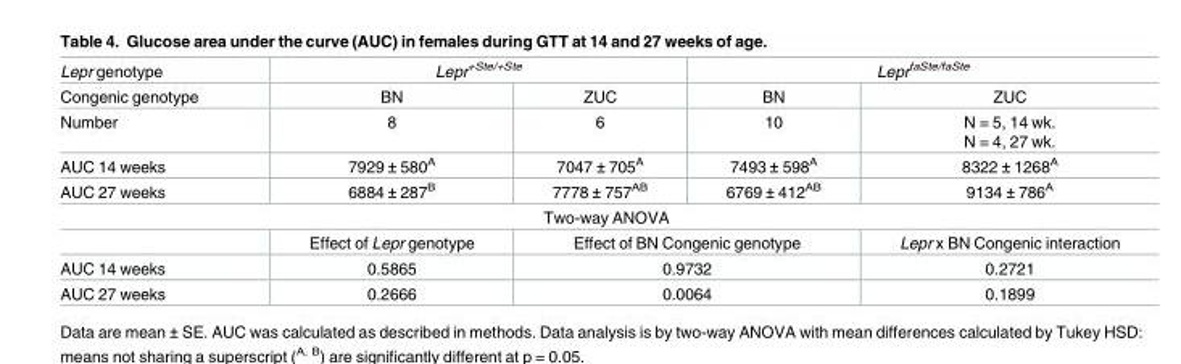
<table><tbody><tr><td>Lepr genotype</td><td colspan="2">Lepr<sup>+Ste/+Ste</sup></td><td colspan="2">Lepr<sup>faSte/faSte</sup></td></tr><tr><td>Congenic genotype</td><td>BN</td><td>ZUC</td><td>BN</td><td>ZUC</td></tr><tr><td>Number</td><td>8</td><td>6</td><td>10</td><td>N = 5, 14 wk. N = 4, 27 wk.</td></tr><tr><td>AUC 14 weeks</td><td>7929 ± 580<sup>A</sup></td><td>7047 ± 705<sup>A</sup></td><td>7493 ± 598<sup>A</sup></td><td>8322 ± 1268<sup>A</sup></td></tr><tr><td>AUC 27 weeks</td><td>6884 ± 287<sup>B</sup></td><td>7778 ± 757<sup>AB</sup></td><td>6769 ± 412<sup>AB</sup></td><td>9134 ± 786<sup>A</sup></td></tr><tr><td colspan="5">Two-way ANOVA</td></tr><tr><td></td><td>Effect of Lepr genotype</td><td colspan="2">Effect of BN Congenic genotype</td><td>Lepr x BN Congenic interaction</td></tr><tr><td>AUC 14 weeks</td><td>0.5865</td><td colspan="2">0.9732</td><td>0.2721</td></tr><tr><td>AUC 27 weeks</td><td>0.2666</td><td colspan="2">0.0064</td><td>0.1899</td></tr></tbody></table>